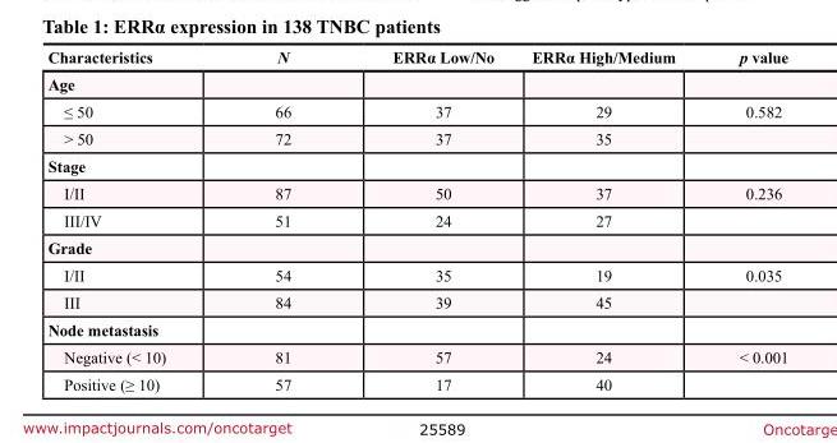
<table><thead><tr><td>Characteristics</td><td>N</td><td>ERRα Low/No</td><td>ERRα High/Medium</td><td>p value</td></tr></thead><tbody><tr><td colspan="5">Age</td></tr><tr><td>≤ 50</td><td>66</td><td>37</td><td>29</td><td>0.582</td></tr><tr><td>&gt; 50</td><td>72</td><td>37</td><td>35</td><td></td></tr><tr><td colspan="5">Stage</td></tr><tr><td>I/II</td><td>87</td><td>50</td><td>37</td><td>0.236</td></tr><tr><td>III/IV</td><td>51</td><td>24</td><td>27</td><td></td></tr><tr><td colspan="5">Grade</td></tr><tr><td>I/II</td><td>54</td><td>35</td><td>19</td><td>0.035</td></tr><tr><td>III</td><td>84</td><td>39</td><td>45</td><td></td></tr><tr><td colspan="5">Node metastasis</td></tr><tr><td>Negative (&lt; 10)</td><td>81</td><td>57</td><td>24</td><td>&lt; 0.001</td></tr><tr><td>Positive (≥ 10)</td><td>57</td><td>17</td><td>40</td><td></td></tr></tbody></table>